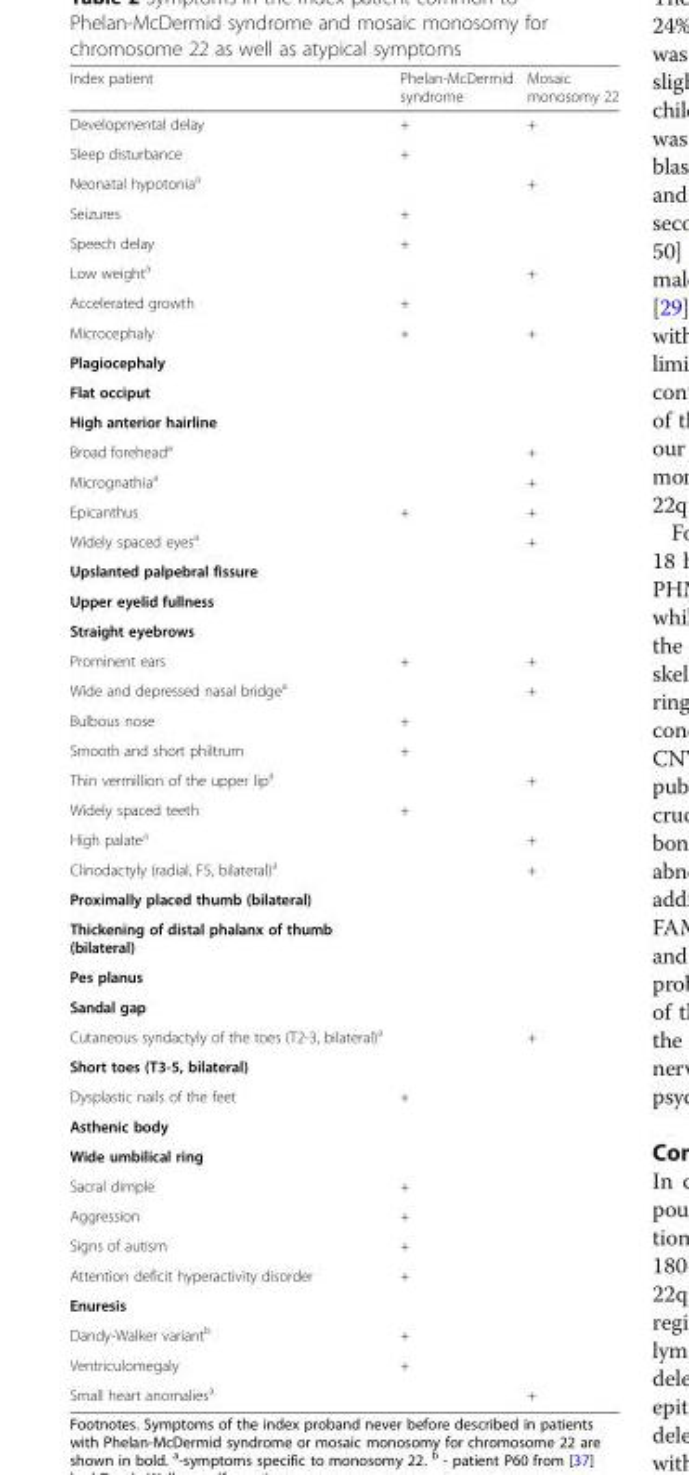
<table><thead><tr><td>Index patient</td><td>Phelan-McDermid syndrome</td><td>Mosaic monosomy 22</td></tr></thead><tbody><tr><td>Developmental delay</td><td>+</td><td>+</td></tr><tr><td>Sleep disturbance</td><td>+</td><td></td></tr><tr><td>Neonatal hypotonia<sup>a</sup></td><td></td><td>+</td></tr><tr><td>Seizures</td><td>+</td><td></td></tr><tr><td>Speech delay</td><td>+</td><td></td></tr><tr><td>Low weight<sup>a</sup></td><td></td><td>+</td></tr><tr><td>Accelerated growth</td><td>+</td><td></td></tr><tr><td>Microcephaly</td><td>+</td><td>+</td></tr><tr><td colspan="3">Plagiocephaly</td></tr><tr><td colspan="3">Flat occiput</td></tr><tr><td colspan="3">High anterior hairline</td></tr><tr><td>Broad forehead<sup>a</sup></td><td></td><td>+</td></tr><tr><td>Micrognathia<sup>a</sup></td><td></td><td>+</td></tr><tr><td>Epicanthus</td><td>+</td><td>+</td></tr><tr><td>Widely spaced eyes<sup>a</sup></td><td></td><td>+</td></tr><tr><td colspan="3">Upslanted palpebral fissure</td></tr><tr><td colspan="3">Upper eyelid fullness</td></tr><tr><td colspan="3">Straight eyebrows</td></tr><tr><td>Prominent ears</td><td>+</td><td>+</td></tr><tr><td>Wide and depressed nasal bridge<sup>a</sup></td><td></td><td>+</td></tr><tr><td>Bulbous nose</td><td>+</td><td></td></tr><tr><td>Smooth and short philtrum</td><td>+</td><td></td></tr><tr><td>Thin vermillion of the upper lip<sup>a</sup></td><td></td><td>+</td></tr><tr><td>Widely spaced teeth</td><td>+</td><td></td></tr><tr><td>High palate<sup>a</sup></td><td></td><td>+</td></tr><tr><td>Clinodactyly (radial, F5, bilateral)<sup>a</sup></td><td></td><td>+</td></tr><tr><td colspan="3">Proximally placed thumb (bilateral)</td></tr><tr><td colspan="3">Thickening of distal phalanx of thumb (bilateral)</td></tr><tr><td colspan="3">Pes planus</td></tr><tr><td colspan="3">Sandal gap</td></tr><tr><td>Cutaneous syndactyly of the toes (T2-3, bilateral)<sup>a</sup></td><td></td><td>+</td></tr><tr><td colspan="3">Short toes (T3-5, bilateral)</td></tr><tr><td>Dysplastic nails of the feet</td><td>+</td><td></td></tr><tr><td colspan="3">Asthenic body</td></tr><tr><td colspan="3">Wide umbilical ring</td></tr><tr><td>Sacral dimple</td><td>+</td><td></td></tr><tr><td>Aggression</td><td>+</td><td></td></tr><tr><td>Signs of autism</td><td>+</td><td></td></tr><tr><td>Attention deficit hyperactivity disorder</td><td>+</td><td></td></tr><tr><td colspan="3">Enuresis</td></tr><tr><td>Dandy-Walker variant<sup>b</sup></td><td>+</td><td></td></tr><tr><td>Ventriculomegaly</td><td>+</td><td></td></tr><tr><td>Small heart anomalies<sup>a</sup></td><td></td><td>+</td></tr></tbody></table>